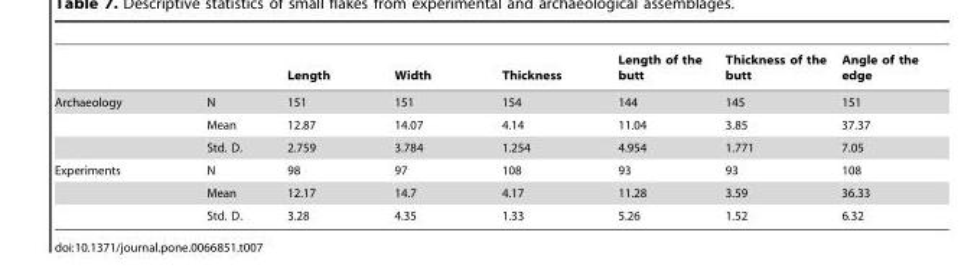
<table><thead><tr><td></td><td></td><td>Length</td><td>Width</td><td>Thickness</td><td>Length of the butt</td><td>Thickness of the butt</td><td>Angle of the edge</td></tr></thead><tbody><tr><td rowspan="3">Archaeology</td><td>N</td><td>151</td><td>151</td><td>154</td><td>144</td><td>145</td><td>151</td></tr><tr><td>Mean</td><td>12.87</td><td>14.07</td><td>4.14</td><td>11.04</td><td>3.85</td><td>37.37</td></tr><tr><td>Std. D.</td><td>2.759</td><td>3.784</td><td>1.254</td><td>4.954</td><td>1.771</td><td>7.05</td></tr><tr><td rowspan="3">Experiments</td><td>N</td><td>98</td><td>97</td><td>108</td><td>93</td><td>93</td><td>108</td></tr><tr><td>Mean</td><td>12.17</td><td>14.7</td><td>4.17</td><td>11.28</td><td>3.59</td><td>36.33</td></tr><tr><td>Std. D.</td><td>3.28</td><td>4.35</td><td>1.33</td><td>5.26</td><td>1.52</td><td>6.32</td></tr></tbody></table>